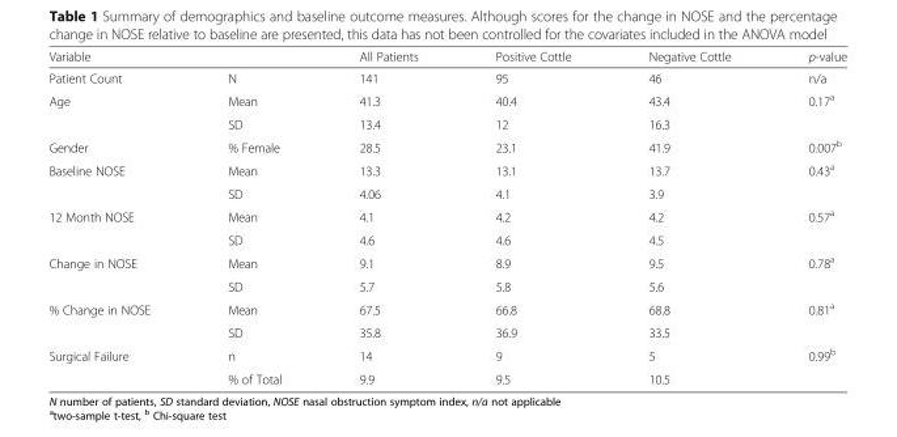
<table><thead><tr><td>Variable</td><td></td><td>All Patients</td><td>Positive Cottle</td><td>Negative Cottle</td><td>p-value</td></tr></thead><tbody><tr><td>Patient Count</td><td>N</td><td>141</td><td>95</td><td>46</td><td>n/a</td></tr><tr><td rowspan="2">Age</td><td>Mean</td><td>41.3</td><td>40.4</td><td>43.4</td><td rowspan="2">0.17<sup>a</sup></td></tr><tr><td>SD</td><td>13.4</td><td>12</td><td>16.3</td></tr><tr><td>Gender</td><td>% Female</td><td>28.5</td><td>23.1</td><td>41.9</td><td>0.007<sup>b</sup></td></tr><tr><td rowspan="2">Baseline NOSE</td><td>Mean</td><td>13.3</td><td>13.1</td><td>13.7</td><td rowspan="2">0.43<sup>a</sup></td></tr><tr><td>SD</td><td>4.06</td><td>4.1</td><td>3.9</td></tr><tr><td rowspan="2">12 Month NOSE</td><td>Mean</td><td>4.1</td><td>4.2</td><td>4.2</td><td rowspan="2">0.57<sup>a</sup></td></tr><tr><td>SD</td><td>4.6</td><td>4.6</td><td>4.5</td></tr><tr><td rowspan="2">Change in NOSE</td><td>Mean</td><td>9.1</td><td>8.9</td><td>9.5</td><td rowspan="2">0.78<sup>a</sup></td></tr><tr><td>SD</td><td>5.7</td><td>5.8</td><td>5.6</td></tr><tr><td rowspan="2">% Change in NOSE</td><td>Mean</td><td>67.5</td><td>66.8</td><td>68.8</td><td rowspan="2">0.81<sup>a</sup></td></tr><tr><td>SD</td><td>35.8</td><td>36.9</td><td>33.5</td></tr><tr><td rowspan="2">Surgical Failure</td><td>n</td><td>14</td><td>9</td><td>5</td><td rowspan="2">0.99<sup>b</sup></td></tr><tr><td>% of Total</td><td>9.9</td><td>9.5</td><td>10.5</td></tr></tbody></table>